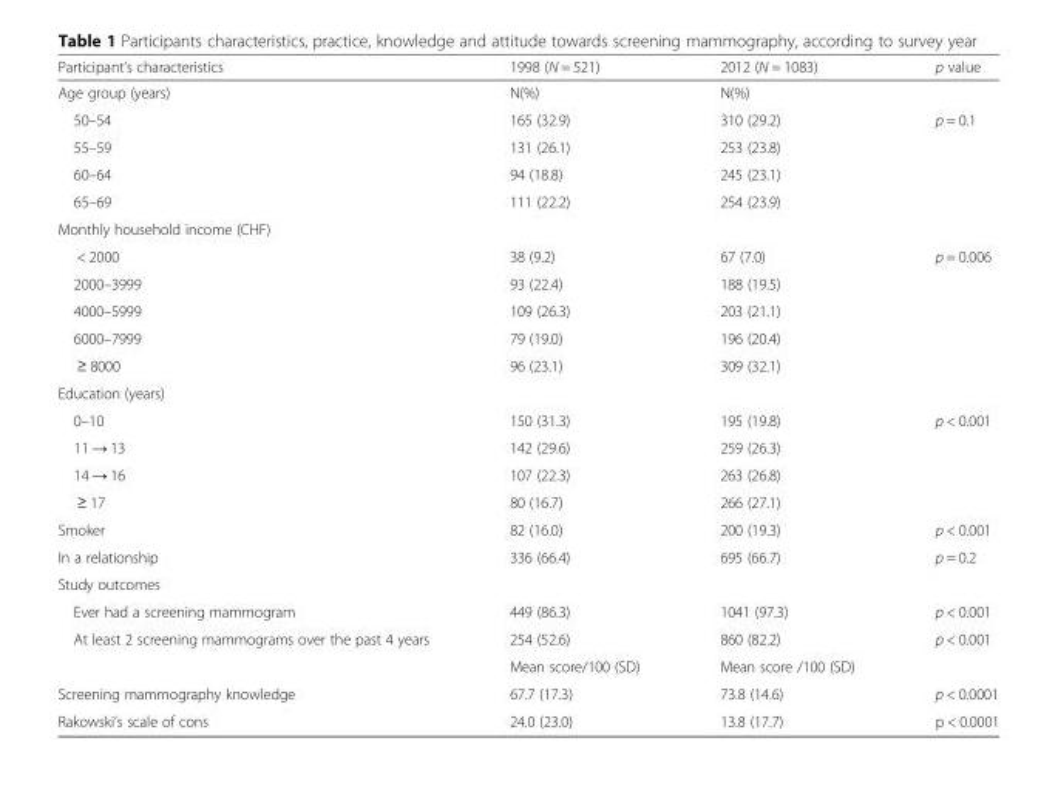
<table><thead><tr><td>Participant’s characteristics</td><td>1998 (N = 521)</td><td>2012 (N = 1083)</td><td>p value</td></tr></thead><tbody><tr><td>Age group (years)</td><td>N(%)</td><td>N(%)</td><td></td></tr><tr><td>50–54</td><td>165 (32.9)</td><td>310 (29.2)</td><td rowspan="4">p = 0.1</td></tr><tr><td>55–59</td><td>131 (26.1)</td><td>253 (23.8)</td></tr><tr><td>60–64</td><td>94 (18.8)</td><td>245 (23.1)</td></tr><tr><td>65–69</td><td>111 (22.2)</td><td>254 (23.9)</td></tr><tr><td colspan="4">Monthly household income (CHF)</td></tr><tr><td>&lt; 2000</td><td>38 (9.2)</td><td>67 (7.0)</td><td rowspan="5">p = 0.006</td></tr><tr><td>2000–3999</td><td>93 (22.4)</td><td>188 (19.5)</td></tr><tr><td>4000–5999</td><td>109 (26.3)</td><td>203 (21.1)</td></tr><tr><td>6000–7999</td><td>79 (19.0)</td><td>196 (20.4)</td></tr><tr><td>≥ 8000</td><td>96 (23.1)</td><td>309 (32.1)</td></tr><tr><td colspan="4">Education (years)</td></tr><tr><td>0–10</td><td>150 (31.3)</td><td>195 (19.8)</td><td rowspan="4">p &lt; 0.001</td></tr><tr><td>11 → 13</td><td>142 (29.6)</td><td>259 (26.3)</td></tr><tr><td>14 → 16</td><td>107 (22.3)</td><td>263 (26.8)</td></tr><tr><td>≥ 17</td><td>80 (16.7)</td><td>266 (27.1)</td></tr><tr><td>Smoker</td><td>82 (16.0)</td><td>200 (19.3)</td><td>p &lt; 0.001</td></tr><tr><td>In a relationship</td><td>336 (66.4)</td><td>695 (66.7)</td><td>p = 0.2</td></tr><tr><td colspan="4">Study outcomes</td></tr><tr><td>Ever had a screening mammogram</td><td>449 (86.3)</td><td>1041 (97.3)</td><td>p &lt; 0.001</td></tr><tr><td rowspan="2">At least 2 screening mammograms over the past 4 years</td><td>254 (52.6)</td><td>860 (82.2)</td><td>p &lt; 0.001</td></tr><tr><td>Mean score/100 (SD)</td><td>Mean score /100 (SD)</td><td></td></tr><tr><td>Screening mammography knowledge</td><td>67.7 (17.3)</td><td>73.8 (14.6)</td><td>p &lt; 0.0001</td></tr><tr><td>Rakowski’s scale of cons</td><td>24.0 (23.0)</td><td>13.8 (17.7)</td><td>p &lt; 0.0001</td></tr></tbody></table>